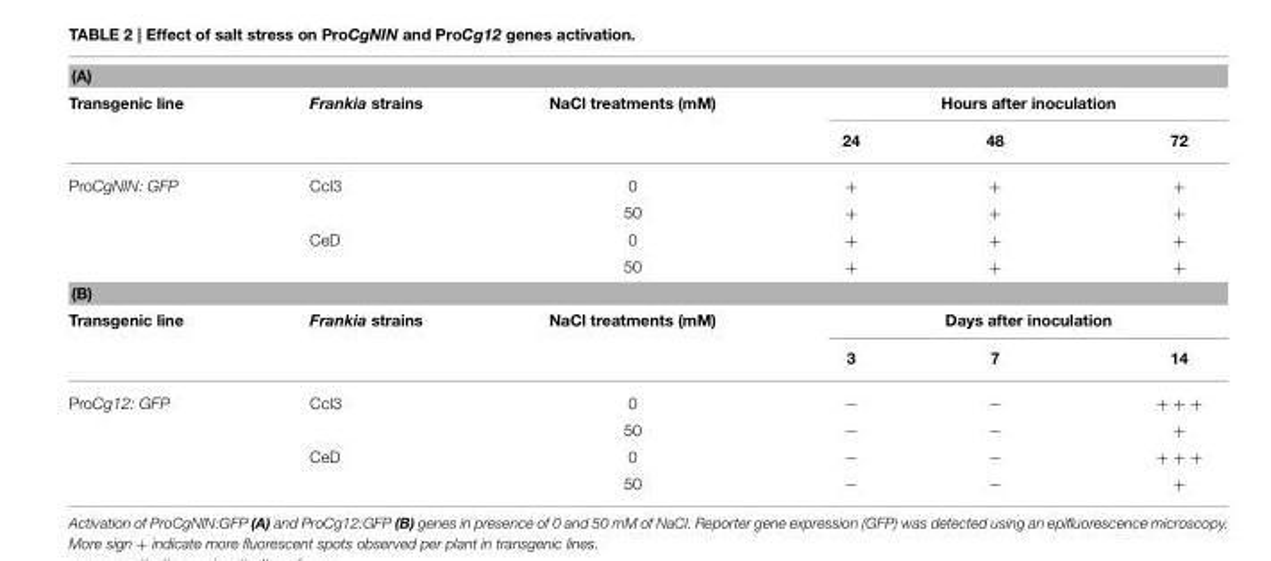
<table><thead><tr><td colspan="6">(A)</td></tr><tr><td rowspan="2">Transgenic line</td><td rowspan="2">Frankia strains</td><td rowspan="2">NaCl treatments (mM)</td><td colspan="3">Hours after inoculation</td></tr><tr><td>24</td><td>48</td><td>72</td></tr></thead><tbody><tr><td rowspan="4">ProCgNIN: GFP</td><td>CcI3</td><td>0</td><td>+</td><td>+</td><td>+</td></tr><tr><td></td><td>50</td><td>+</td><td>+</td><td>+</td></tr><tr><td>CeD</td><td>0</td><td>+</td><td>+</td><td>+</td></tr><tr><td></td><td>50</td><td>+</td><td>+</td><td>+</td></tr><tr><td colspan="6">(B)</td></tr><tr><td rowspan="2">Transgenic line</td><td>Frankia strains</td><td>NaCl treatments (mM)</td><td colspan="3">Days after inoculation</td></tr><tr><td></td><td></td><td>3</td><td>7</td><td>14</td></tr><tr><td rowspan="4">ProCg12: GFP</td><td>CcI3</td><td>0</td><td>−</td><td>−</td><td>+ + +</td></tr><tr><td></td><td>50</td><td>−</td><td>−</td><td>+</td></tr><tr><td>CeD</td><td>0</td><td>−</td><td>−</td><td>+ + +</td></tr><tr><td></td><td>50</td><td>−</td><td>−</td><td>+</td></tr></tbody></table>